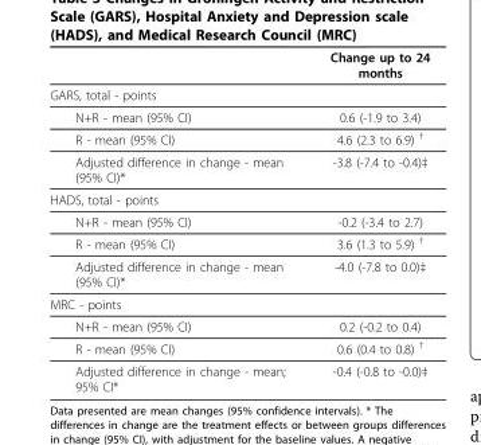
<table><thead><tr><td></td><td>Change up to 24 months</td></tr></thead><tbody><tr><td colspan="2">GARS, total - points</td></tr><tr><td>N+R - mean (95% CI)</td><td>0.6 (-1.9 to 3.4)</td></tr><tr><td>R - mean (95% CI)</td><td>4.6 (2.3 to 6.9) <sup>†</sup></td></tr><tr><td>Adjusted difference in change - mean (95% CI)*</td><td>-3.8 (-7.4 to -0.4)‡</td></tr><tr><td colspan="2">HADS, total - points</td></tr><tr><td>N+R - mean (95% CI)</td><td>-0.2 (-3.4 to 2.7)</td></tr><tr><td>R - mean (95% CI)</td><td>3.6 (1.3 to 5.9) <sup>†</sup></td></tr><tr><td>Adjusted difference in change - mean (95% CI)*</td><td>-4.0 (-7.8 to 0.0)‡</td></tr><tr><td colspan="2">MRC - points</td></tr><tr><td>N+R - mean (95% CI)</td><td>0.2 (-0.2 to 0.4)</td></tr><tr><td>R - mean (95% CI)</td><td>0.6 (0.4 to 0.8) <sup>†</sup></td></tr><tr><td>Adjusted difference in change - mean; 95% CI*</td><td>-0.4 (-0.8 to -0.0)‡</td></tr></tbody></table>